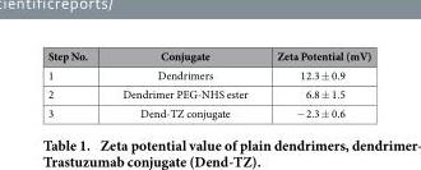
<table><thead><tr><td>Step No.</td><td>Conjugate</td><td>Zeta Potential (mV)</td></tr></thead><tbody><tr><td>1</td><td>Dendrimers</td><td>12.3 ± 0.9</td></tr><tr><td>2</td><td>Dendrimer PEG-NHS ester</td><td>6.8 ± 1.5</td></tr><tr><td>3</td><td>Dend-TZ conjugate</td><td>− 2.3 ± 0.6</td></tr></tbody></table>